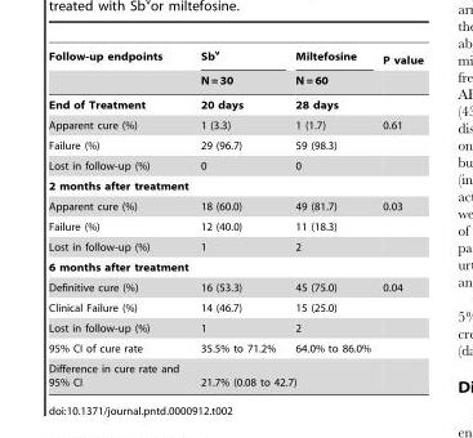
<table><thead><tr><td rowspan="2">Follow-up endpoints</td><td rowspan="2">Sb<sup>v</sup> N = 30</td><td rowspan="2">Miltefosine N = 60</td><td rowspan="2">P value</td></tr><tr></tr></thead><tbody><tr><td>End of Treatment</td><td>20 days</td><td>28 days</td><td></td></tr><tr><td>Apparent cure (%)</td><td>1 (3.3)</td><td>1 (1.7)</td><td>0.61</td></tr><tr><td>Failure (%)</td><td>29 (96.7)</td><td>59 (98.3)</td><td></td></tr><tr><td>Lost in follow-up (%)</td><td>0</td><td>0</td><td></td></tr><tr><td colspan="4">2 months after treatment</td></tr><tr><td>Apparent cure (%)</td><td>18 (60.0)</td><td>49 (81.7)</td><td>0.03</td></tr><tr><td>Failure (%)</td><td>12 (40.0)</td><td>11 (18.3)</td><td></td></tr><tr><td>Lost in follow-up (%)</td><td>1</td><td>2</td><td></td></tr><tr><td colspan="4">6 months after treatment</td></tr><tr><td>Definitive cure (%)</td><td>16 (53.3)</td><td>45 (75.0)</td><td>0.04</td></tr><tr><td>Clinical Failure (%)</td><td>14 (46.7)</td><td>15 (25.0)</td><td></td></tr><tr><td>Lost in follow-up (%)</td><td>1</td><td>2</td><td></td></tr><tr><td>95% CI of cure rate</td><td>35.5% to 71.2%</td><td>64.0% to 86.0%</td><td></td></tr><tr><td>Difference in cure rate and 95% CI</td><td colspan="2">21.7% (0.08 to 42.7)</td><td></td></tr></tbody></table>